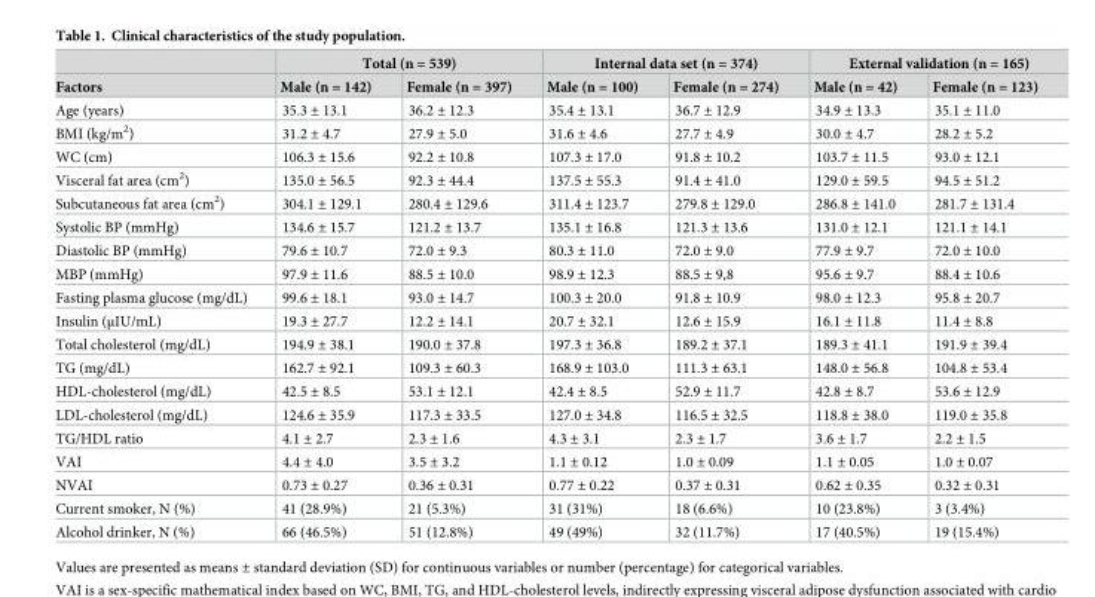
<table><thead><tr><td rowspan="2">Factors</td><td colspan="2">Total (n = 539)</td><td colspan="2">Internal data set (n = 374)</td><td colspan="2">External validation (n = 165)</td></tr><tr><td>Male (n = 142)</td><td>Female (n = 397)</td><td>Male (n = 100)</td><td>Female (n = 274)</td><td>Male (n = 42)</td><td>Female (n = 123)</td></tr></thead><tbody><tr><td>Age (years)</td><td>35.3 ± 13.1</td><td>36.2 ± 12.3</td><td>35.4 ± 13.1</td><td>36.7 ± 12.9</td><td>34.9 ± 13.3</td><td>35.1 ± 11.0</td></tr><tr><td>BMI (kg/m<sup>2</sup>)</td><td>31.2 ± 4.7</td><td>27.9 ± 5.0</td><td>31.6 ± 4.6</td><td>27.7 ± 4.9</td><td>30.0 ± 4.7</td><td>28.2 ± 5.2</td></tr><tr><td>WC (cm)</td><td>106.3 ± 15.6</td><td>92.2 ± 10.8</td><td>107.3 ± 17.0</td><td>91.8 ± 10.2</td><td>103.7 ± 11.5</td><td>93.0 ± 12.1</td></tr><tr><td>Visceral fat area (cm<sup>2</sup>)</td><td>135.0 ± 56.5</td><td>92.3 ± 44.4</td><td>137.5 ± 55.3</td><td>91.4 ± 41.0</td><td>129.0 ± 59.5</td><td>94.5 ± 51.2</td></tr><tr><td>Subcutaneous fat area (cm<sup>2</sup>)</td><td>304.1 ± 129.1</td><td>280.4 ± 129.6</td><td>311.4 ± 123.7</td><td>279.8 ± 129.0</td><td>286.8 ± 141.0</td><td>281.7 ± 131.4</td></tr><tr><td>Systolic BP (mmHg)</td><td>134.6 ± 15.7</td><td>121.2 ± 13.7</td><td>135.1 ± 16.8</td><td>121.3 ± 13.6</td><td>131.0 ± 12.1</td><td>121.1 ± 14.1</td></tr><tr><td>Diastolic BP (mmHg)</td><td>79.6 ± 10.7</td><td>72.0 ± 9.3</td><td>80.3 ± 11.0</td><td>72.0 ± 9.0</td><td>77.9 ± 9.7</td><td>72.0 ± 10.0</td></tr><tr><td>MBP (mmHg)</td><td>97.9 ± 11.6</td><td>88.5 ± 10.0</td><td>98.9 ± 12.3</td><td>88.5 ± 9,8</td><td>95.6 ± 9.7</td><td>88.4 ± 10.6</td></tr><tr><td>Fasting plasma glucose (mg/dL)</td><td>99.6 ± 18.1</td><td>93.0 ± 14.7</td><td>100.3 ± 20.0</td><td>91.8 ± 10.9</td><td>98.0 ± 12.3</td><td>95.8 ± 20.7</td></tr><tr><td>Insulin (μIU/mL)</td><td>19.3 ± 27.7</td><td>12.2 ± 14.1</td><td>20.7 ± 32.1</td><td>12.6 ± 15.9</td><td>16.1 ± 11.8</td><td>11.4 ± 8.8</td></tr><tr><td>Total cholesterol (mg/dL)</td><td>194.9 ± 38.1</td><td>190.0 ± 37.8</td><td>197.3 ± 36.8</td><td>189.2 ± 37.1</td><td>189.3 ± 41.1</td><td>191.9 ± 39.4</td></tr><tr><td>TG (mg/dL)</td><td>162.7 ± 92.1</td><td>109.3 ± 60.3</td><td>168.9 ± 103.0</td><td>111.3 ± 63.1</td><td>148.0 ± 56.8</td><td>104.8 ± 53.4</td></tr><tr><td>HDL-cholesterol (mg/dL)</td><td>42.5 ± 8.5</td><td>53.1 ± 12.1</td><td>42.4 ± 8.5</td><td>52.9 ± 11.7</td><td>42.8 ± 8.7</td><td>53.6 ± 12.9</td></tr><tr><td>LDL-cholesterol (mg/dL)</td><td>124.6 ± 35.9</td><td>117.3 ± 33.5</td><td>127.0 ± 34.8</td><td>116.5 ± 32.5</td><td>118.8 ± 38.0</td><td>119.0 ± 35.8</td></tr><tr><td>TG/HDL ratio</td><td>4.1 ± 2.7</td><td>2.3 ± 1.6</td><td>4.3 ± 3.1</td><td>2.3 ± 1.7</td><td>3.6 ± 1.7</td><td>2.2 ± 1.5</td></tr><tr><td>VAI</td><td>4.4 ± 4.0</td><td>3.5 ± 3.2</td><td>1.1 ± 0.12</td><td>1.0 ± 0.09</td><td>1.1 ± 0.05</td><td>1.0 ± 0.07</td></tr><tr><td>NVAI</td><td>0.73 ± 0.27</td><td>0.36 ± 0.31</td><td>0.77 ± 0.22</td><td>0.37 ± 0.31</td><td>0.62 ± 0.35</td><td>0.32 ± 0.31</td></tr><tr><td>Current smoker, N (%)</td><td>41 (28.9%)</td><td>21 (5.3%)</td><td>31 (31%)</td><td>18 (6.6%)</td><td>10 (23.8%)</td><td>3 (3.4%)</td></tr><tr><td>Alcohol drinker, N (%)</td><td>66 (46.5%)</td><td>51 (12.8%)</td><td>49 (49%)</td><td>32 (11.7%)</td><td>17 (40.5%)</td><td>19 (15.4%)</td></tr></tbody></table>